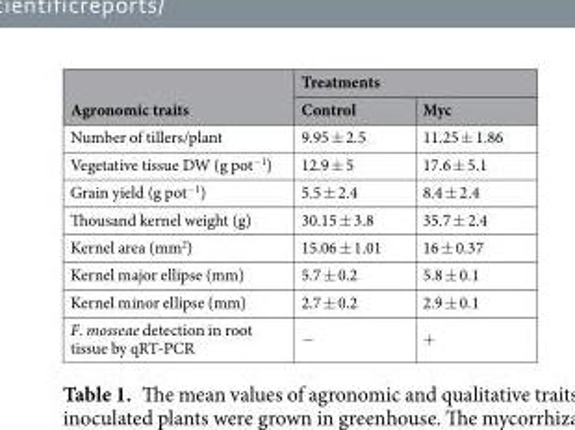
<table><thead><tr><td rowspan="2">Agronomic traits</td><td colspan="2">Treatments</td></tr><tr><td>Control</td><td>Myc</td></tr></thead><tbody><tr><td>Number of tillers/plant</td><td>9.95 ± 2.5</td><td>11.25 ± 1.86</td></tr><tr><td>Vegetative tissue DW (g pot<sup>−1</sup>)</td><td>12.9 ± 5</td><td>17.6 ± 5.1</td></tr><tr><td>Grain yield (g pot<sup>−1</sup>)</td><td>5.5 ± 2.4</td><td>8.4 ± 2.4</td></tr><tr><td>Thousand kernel weight (g)</td><td>30.15 ± 3.8</td><td>35.7 ± 2.4</td></tr><tr><td>Kernel area (mm<sup>2</sup>)</td><td>15.06 ± 1.01</td><td>16 ± 0.37</td></tr><tr><td>Kernel major ellipse (mm)</td><td>5.7 ± 0.2</td><td>5.8 ± 0.1</td></tr><tr><td>Kernel minor ellipse (mm)</td><td>2.7 ± 0.2</td><td>2.9 ± 0.1</td></tr><tr><td>F. mosseae detection in root tissue by qRT-PCR</td><td>−</td><td>+</td></tr></tbody></table>